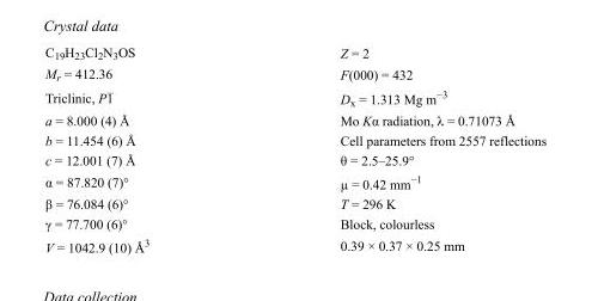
<table><tbody><tr><td>C<sub>19</sub>H<sub>23</sub>Cl<sub>2</sub>N<sub>3</sub>OS</td><td>Z = 2</td></tr><tr><td>M<sub>r</sub> = 412.36</td><td>F(000) = 432</td></tr><tr><td>Triclinic, P1</td><td>D<sub>x</sub> = 1.313 Mg m<sup>−3</sup></td></tr><tr><td>a = 8.000 (4) Å</td><td>Mo Kα radiation, λ = 0.71073 Å</td></tr><tr><td>b = 11.454 (6) Å</td><td>Cell parameters from 2557 reflections</td></tr><tr><td>c = 12.001 (7) Å</td><td>θ = 2.5–25.9°</td></tr><tr><td>α = 87.820 (7)°</td><td>µ = 0.42 mm<sup>−1</sup></td></tr><tr><td>β = 76.084 (6)°</td><td>T = 296 K</td></tr><tr><td>γ = 77.700 (6)°</td><td>Block, colourless</td></tr><tr><td>V = 1042.9 (10) Å<sup>3</sup></td><td>0.39 × 0.37 × 0.25 mm</td></tr></tbody></table>